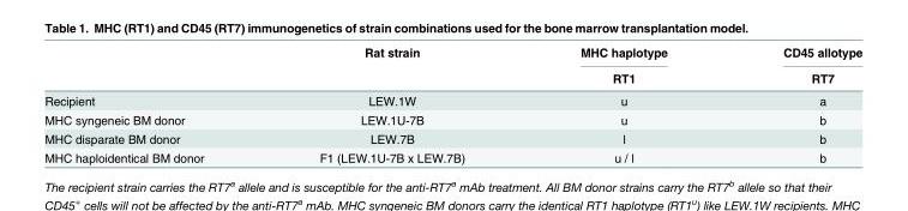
<table><thead><tr><td rowspan="2"></td><td rowspan="2">Rat strain</td><td rowspan="2">MHC haplotype RT1</td><td rowspan="2">CD45 allotype RT7</td></tr><tr></tr></thead><tbody><tr><td>Recipient</td><td>LEW.1W</td><td>u</td><td>a</td></tr><tr><td>MHC syngeneic BM donor</td><td>LEW.1U-7B</td><td>u</td><td>b</td></tr><tr><td>MHC disparate BM donor</td><td>LEW.7B</td><td>l</td><td>b</td></tr><tr><td>MHC haploidentical BM donor</td><td>F1 (LEW.1U-7B x LEW.7B)</td><td>u / l</td><td>b</td></tr></tbody></table>